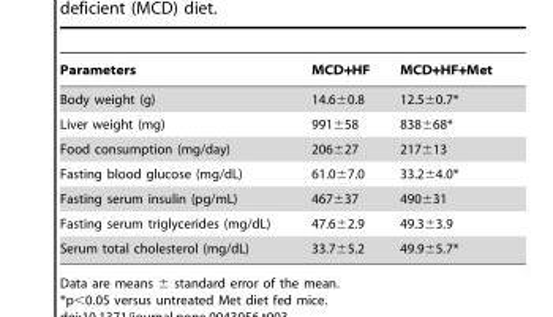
<table><thead><tr><td>Parameters</td><td>MCD+HF</td><td>MCD+HF+Met</td></tr></thead><tbody><tr><td>Body weight (g)</td><td>14.6±0.8</td><td>12.5±0.7*</td></tr><tr><td>Liver weight (mg)</td><td>991±58</td><td>838±68*</td></tr><tr><td>Food consumption (mg/day)</td><td>206±27</td><td>217±13</td></tr><tr><td>Fasting blood glucose (mg/dL)</td><td>61.0±7.0</td><td>33.2±4.0*</td></tr><tr><td>Fasting serum insulin (pg/mL)</td><td>467±37</td><td>490±31</td></tr><tr><td>Fasting serum triglycerides (mg/dL)</td><td>47.6±2.9</td><td>49.3±3.9</td></tr><tr><td>Serum total cholesterol (mg/dL)</td><td>33.7±5.2</td><td>49.9±5.7*</td></tr></tbody></table>